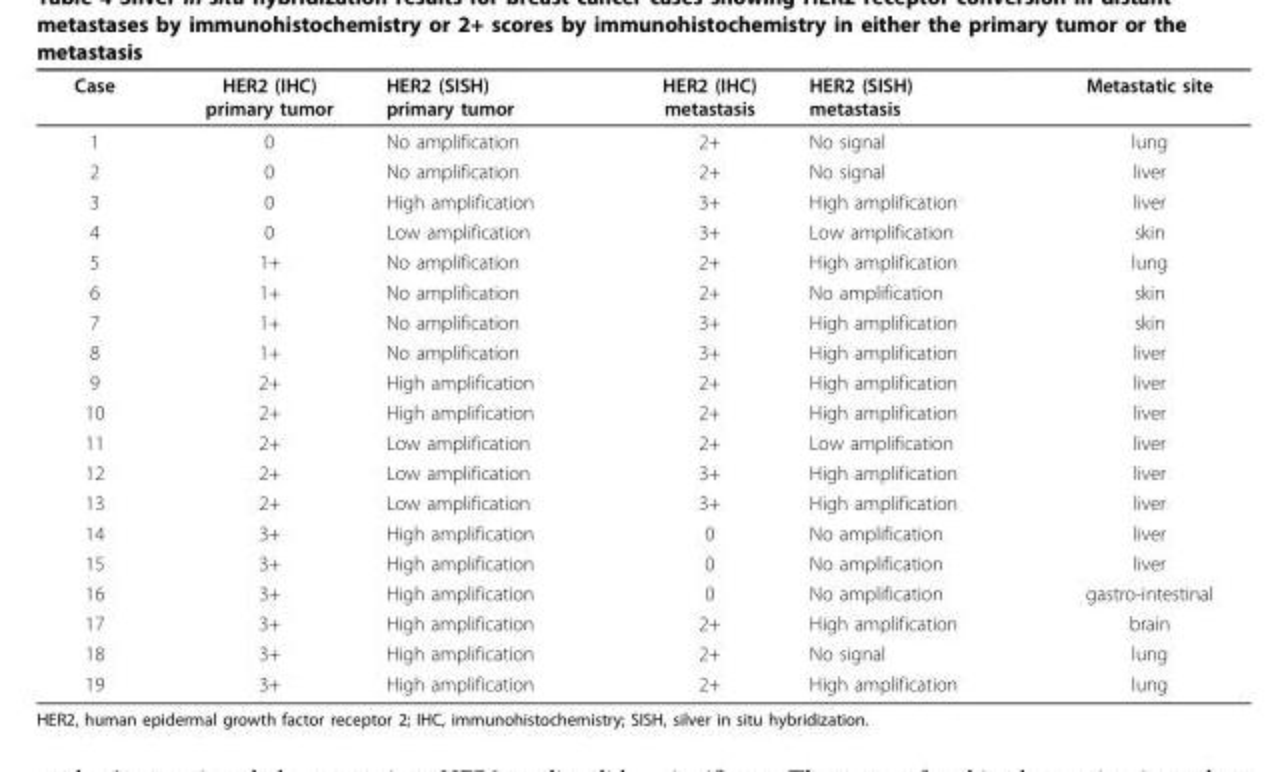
<table><thead><tr><td>Case</td><td>HER2 (IHC) primary tumor</td><td>HER2 (SISH) primary tumor</td><td>HER2 (IHC) metastasis</td><td>HER2 (SISH) metastasis</td><td>Metastatic site</td></tr></thead><tbody><tr><td>1</td><td>0</td><td>No amplification</td><td>2+</td><td>No signal</td><td>lung</td></tr><tr><td>2</td><td>0</td><td>No amplification</td><td>2+</td><td>No signal</td><td>liver</td></tr><tr><td>3</td><td>0</td><td>High amplification</td><td>3+</td><td>High amplification</td><td>liver</td></tr><tr><td>4</td><td>0</td><td>Low amplification</td><td>3+</td><td>Low amplification</td><td>skin</td></tr><tr><td>5</td><td>1+</td><td>No amplification</td><td>2+</td><td>High amplification</td><td>lung</td></tr><tr><td>6</td><td>1+</td><td>No amplification</td><td>2+</td><td>No amplification</td><td>skin</td></tr><tr><td>7</td><td>1+</td><td>No amplification</td><td>3+</td><td>High amplification</td><td>skin</td></tr><tr><td>8</td><td>1+</td><td>No amplification</td><td>3+</td><td>High amplification</td><td>liver</td></tr><tr><td>9</td><td>2+</td><td>High amplification</td><td>2+</td><td>High amplification</td><td>liver</td></tr><tr><td>10</td><td>2+</td><td>High amplification</td><td>2+</td><td>High amplification</td><td>liver</td></tr><tr><td>11</td><td>2+</td><td>Low amplification</td><td>2+</td><td>Low amplification</td><td>liver</td></tr><tr><td>12</td><td>2+</td><td>Low amplification</td><td>3+</td><td>High amplification</td><td>liver</td></tr><tr><td>13</td><td>2+</td><td>Low amplification</td><td>3+</td><td>High amplification</td><td>liver</td></tr><tr><td>14</td><td>3+</td><td>High amplification</td><td>0</td><td>No amplification</td><td>liver</td></tr><tr><td>15</td><td>3+</td><td>High amplification</td><td>0</td><td>No amplification</td><td>liver</td></tr><tr><td>16</td><td>3+</td><td>High amplification</td><td>0</td><td>No amplification</td><td>gastro-intestinal</td></tr><tr><td>17</td><td>3+</td><td>High amplification</td><td>2+</td><td>High amplification</td><td>brain</td></tr><tr><td>18</td><td>3+</td><td>High amplification</td><td>2+</td><td>No signal</td><td>lung</td></tr><tr><td>19</td><td>3+</td><td>High amplification</td><td>2+</td><td>High amplification</td><td>lung</td></tr></tbody></table>